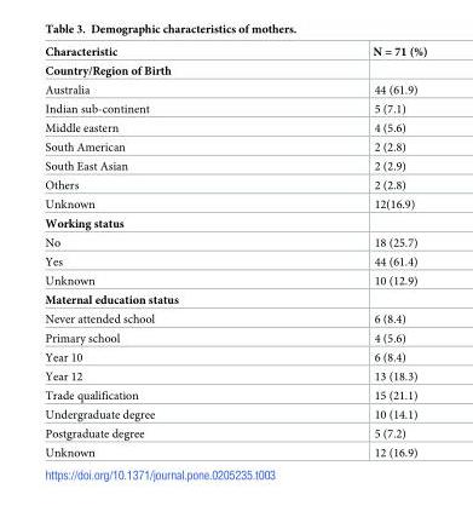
<table><thead><tr><td>Characteristic</td><td>N = 71 (%)</td></tr></thead><tbody><tr><td colspan="2">Country/Region of Birth</td></tr><tr><td>Australia</td><td>44 (61.9)</td></tr><tr><td>Indian sub-continent</td><td>5 (7.1)</td></tr><tr><td>Middle eastern</td><td>4 (5.6)</td></tr><tr><td>South American</td><td>2 (2.8)</td></tr><tr><td>South East Asian</td><td>2 (2.9)</td></tr><tr><td>Others</td><td>2 (2.8)</td></tr><tr><td>Unknown</td><td>12(16.9)</td></tr><tr><td colspan="2">Working status</td></tr><tr><td>No</td><td>18 (25.7)</td></tr><tr><td>Yes</td><td>44 (61.4)</td></tr><tr><td>Unknown</td><td>10 (12.9)</td></tr><tr><td colspan="2">Maternal education status</td></tr><tr><td>Never attended school</td><td>6 (8.4)</td></tr><tr><td>Primary school</td><td>4 (5.6)</td></tr><tr><td>Year 10</td><td>6 (8.4)</td></tr><tr><td>Year 12</td><td>13 (18.3)</td></tr><tr><td>Trade qualification</td><td>15 (21.1)</td></tr><tr><td>Undergraduate degree</td><td>10 (14.1)</td></tr><tr><td>Postgraduate degree</td><td>5 (7.2)</td></tr><tr><td>Unknown</td><td>12 (16.9)</td></tr></tbody></table>